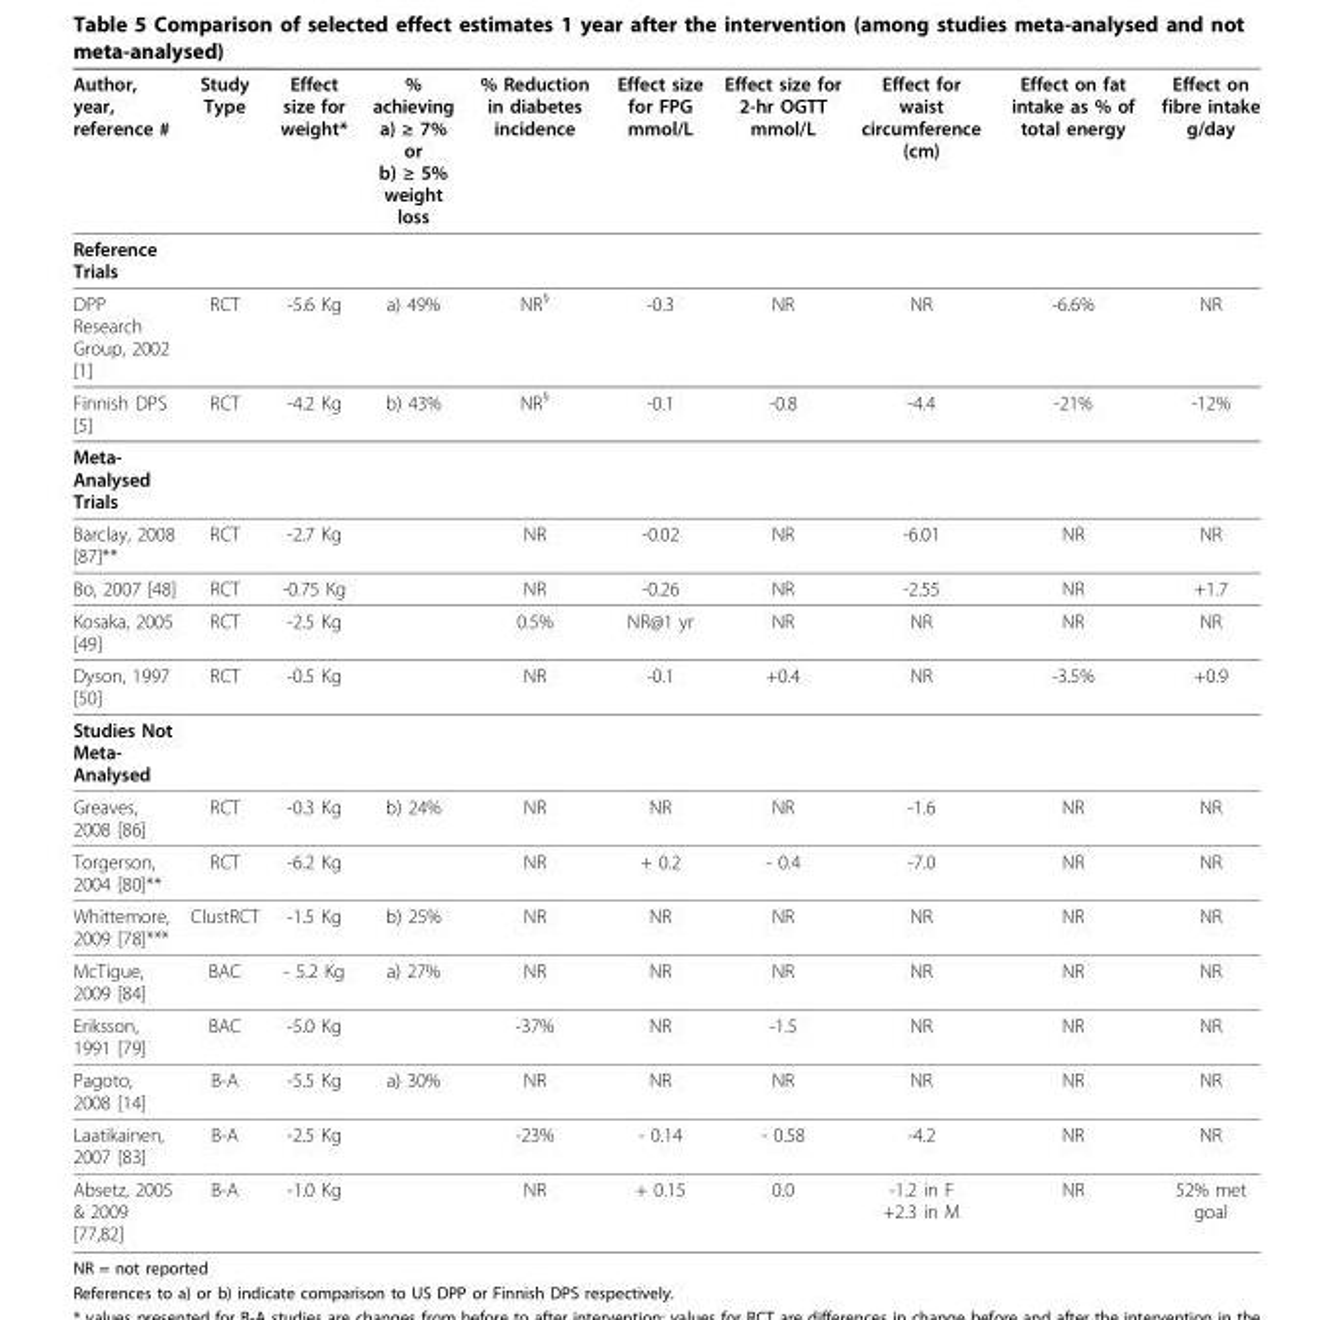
<table><thead><tr><td>Author, year, reference #</td><td>Study Type</td><td>Effect size for weight*</td><td>% achieving a) ≥ 7% or b) ≥ 5% weight loss</td><td>% Reduction in diabetes incidence</td><td>Effect size for FPG mmol/L</td><td>Effect size for 2-hr OGTT mmol/L</td><td>Effect for waist circumference (cm)</td><td>Effect on fat intake as % of total energy</td><td>Effect on fibre intake g/day</td></tr></thead><tbody><tr><td colspan="10">Reference Trials</td></tr><tr><td>DPP Research Group, 2002 [1]</td><td>RCT</td><td>-5.6 Kg</td><td>a) 49%</td><td>NR<sup>§</sup></td><td>-0.3</td><td>NR</td><td>NR</td><td>-6.6%</td><td>NR</td></tr><tr><td>Finnish DPS [5]</td><td>RCT</td><td>-4.2 Kg</td><td>b) 43%</td><td>NR<sup>§</sup></td><td>-0.1</td><td>-0.8</td><td>-4.4</td><td>-21%</td><td>-12%</td></tr><tr><td colspan="10">Meta- Analysed Trials</td></tr><tr><td>Barclay, 2008 [87]**</td><td>RCT</td><td>-2.7 Kg</td><td></td><td>NR</td><td>-0.02</td><td>NR</td><td>-6.01</td><td>NR</td><td>NR</td></tr><tr><td>Bo, 2007 [48]</td><td>RCT</td><td>-0.75 Kg</td><td></td><td>NR</td><td>-0.26</td><td>NR</td><td>-2.55</td><td>NR</td><td>+1.7</td></tr><tr><td>Kosaka, 2005 [49]</td><td>RCT</td><td>-2.5 Kg</td><td></td><td>0.5%</td><td>NR@1 yr</td><td>NR</td><td>NR</td><td>NR</td><td>NR</td></tr><tr><td>Dyson, 1997 [50]</td><td>RCT</td><td>-0.5 Kg</td><td></td><td>NR</td><td>-0.1</td><td>+0.4</td><td>NR</td><td>-3.5%</td><td>+0.9</td></tr><tr><td colspan="10">Studies Not Meta- Analysed</td></tr><tr><td>Greaves, 2008 [86]</td><td>RCT</td><td>-0.3 Kg</td><td>b) 24%</td><td>NR</td><td>NR</td><td>NR</td><td>-1.6</td><td>NR</td><td>NR</td></tr><tr><td>Torgerson, 2004 [80]**</td><td>RCT</td><td>-6.2 Kg</td><td></td><td>NR</td><td>+ 0.2</td><td>- 0.4</td><td>-7.0</td><td>NR</td><td>NR</td></tr><tr><td>Whittemore, 2009 [78]***</td><td>ClustRCT</td><td>-1.5 Kg</td><td>b) 25%</td><td>NR</td><td>NR</td><td>NR</td><td>NR</td><td>NR</td><td>NR</td></tr><tr><td>McTigue, 2009 [84]</td><td>BAC</td><td>- 5.2 Kg</td><td>a) 27%</td><td>NR</td><td>NR</td><td>NR</td><td>NR</td><td>NR</td><td>NR</td></tr><tr><td>Eriksson, 1991 [79]</td><td>BAC</td><td>-5.0 Kg</td><td></td><td>-37%</td><td>NR</td><td>-1.5</td><td>NR</td><td>NR</td><td>NR</td></tr><tr><td>Pagoto, 2008 [14]</td><td>B-A</td><td>-5.5 Kg</td><td>a) 30%</td><td>NR</td><td>NR</td><td>NR</td><td>NR</td><td>NR</td><td>NR</td></tr><tr><td>Laatikainen, 2007 [83]</td><td>B-A</td><td>-2.5 Kg</td><td></td><td>-23%</td><td>- 0.14</td><td>- 0.58</td><td>-4.2</td><td>NR</td><td>NR</td></tr><tr><td>Absetz, 2005 &amp; 2009 [77,82]</td><td>B-A</td><td>-1.0 Kg</td><td></td><td>NR</td><td>+ 0.15</td><td>0.0</td><td>-1.2 in F +2.3 in M</td><td>NR</td><td>52% met goal</td></tr></tbody></table>